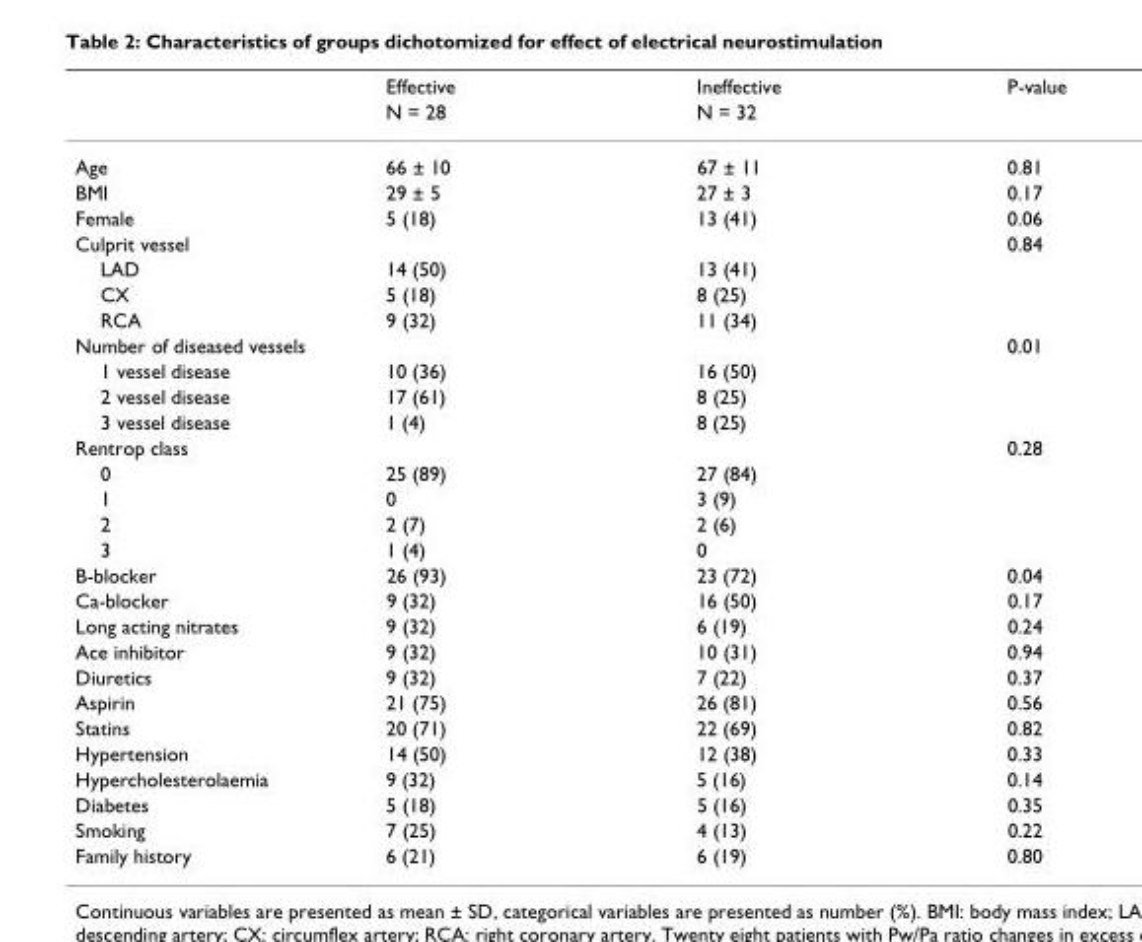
<table><thead><tr><td rowspan="2"></td><td rowspan="2">Effective N = 28</td><td rowspan="2">Ineffective N = 32</td><td rowspan="2">P-value</td></tr><tr></tr></thead><tbody><tr><td>Age</td><td>66 ± 10</td><td>67 ± 11</td><td>0.81</td></tr><tr><td>BMI</td><td>29 ± 5</td><td>27 ± 3</td><td>0.17</td></tr><tr><td>Female</td><td>5 (18)</td><td>13 (41)</td><td>0.06</td></tr><tr><td>Culprit vessel</td><td></td><td></td><td>0.84</td></tr><tr><td>LAD</td><td>14 (50)</td><td>13 (41)</td><td></td></tr><tr><td>CX</td><td>5 (18)</td><td>8 (25)</td><td></td></tr><tr><td>RCA</td><td>9 (32)</td><td>11 (34)</td><td></td></tr><tr><td>Number of diseased vessels</td><td></td><td></td><td>0.01</td></tr><tr><td>1 vessel disease</td><td>10 (36)</td><td>16 (50)</td><td></td></tr><tr><td>2 vessel disease</td><td>17 (61)</td><td>8 (25)</td><td></td></tr><tr><td>3 vessel disease</td><td>1 (4)</td><td>8 (25)</td><td></td></tr><tr><td>Rentrop class</td><td></td><td></td><td>0.28</td></tr><tr><td>0</td><td>25 (89)</td><td>27 (84)</td><td></td></tr><tr><td>1</td><td>0</td><td>3 (9)</td><td></td></tr><tr><td>2</td><td>2 (7)</td><td>2 (6)</td><td></td></tr><tr><td>3</td><td>1 (4)</td><td>0</td><td></td></tr><tr><td>B-blocker</td><td>26 (93)</td><td>23 (72)</td><td>0.04</td></tr><tr><td>Ca-blocker</td><td>9 (32)</td><td>16 (50)</td><td>0.17</td></tr><tr><td>Long acting nitrates</td><td>9 (32)</td><td>6 (19)</td><td>0.24</td></tr><tr><td>Ace inhibitor</td><td>9 (32)</td><td>10 (31)</td><td>0.94</td></tr><tr><td>Diuretics</td><td>9 (32)</td><td>7 (22)</td><td>0.37</td></tr><tr><td>Aspirin</td><td>21 (75)</td><td>26 (81)</td><td>0.56</td></tr><tr><td>Statins</td><td>20 (71)</td><td>22 (69)</td><td>0.82</td></tr><tr><td>Hypertension</td><td>14 (50)</td><td>12 (38)</td><td>0.33</td></tr><tr><td>Hypercholesterolaemia</td><td>9 (32)</td><td>5 (16)</td><td>0.14</td></tr><tr><td>Diabetes</td><td>5 (18)</td><td>5 (16)</td><td>0.35</td></tr><tr><td>Smoking</td><td>7 (25)</td><td>4 (13)</td><td>0.22</td></tr><tr><td>Family history</td><td>6 (21)</td><td>6 (19)</td><td>0.80</td></tr></tbody></table>